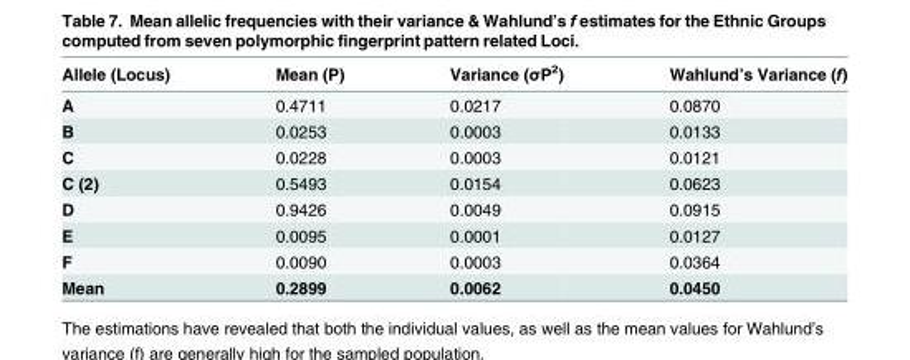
<table><thead><tr><td>Allele (Locus)</td><td>Mean (P)</td><td>Variance (σP<sup>2</sup>)</td><td>Wahlund’s Variance (f)</td></tr></thead><tbody><tr><td>A</td><td>0.4711</td><td>0.0217</td><td>0.0870</td></tr><tr><td>B</td><td>0.0253</td><td>0.0003</td><td>0.0133</td></tr><tr><td>C</td><td>0.0228</td><td>0.0003</td><td>0.0121</td></tr><tr><td>C (2)</td><td>0.5493</td><td>0.0154</td><td>0.0623</td></tr><tr><td>D</td><td>0.9426</td><td>0.0049</td><td>0.0915</td></tr><tr><td>E</td><td>0.0095</td><td>0.0001</td><td>0.0127</td></tr><tr><td>F</td><td>0.0090</td><td>0.0003</td><td>0.0364</td></tr><tr><td>Mean</td><td>0.2899</td><td>0.0062</td><td>0.0450</td></tr></tbody></table>